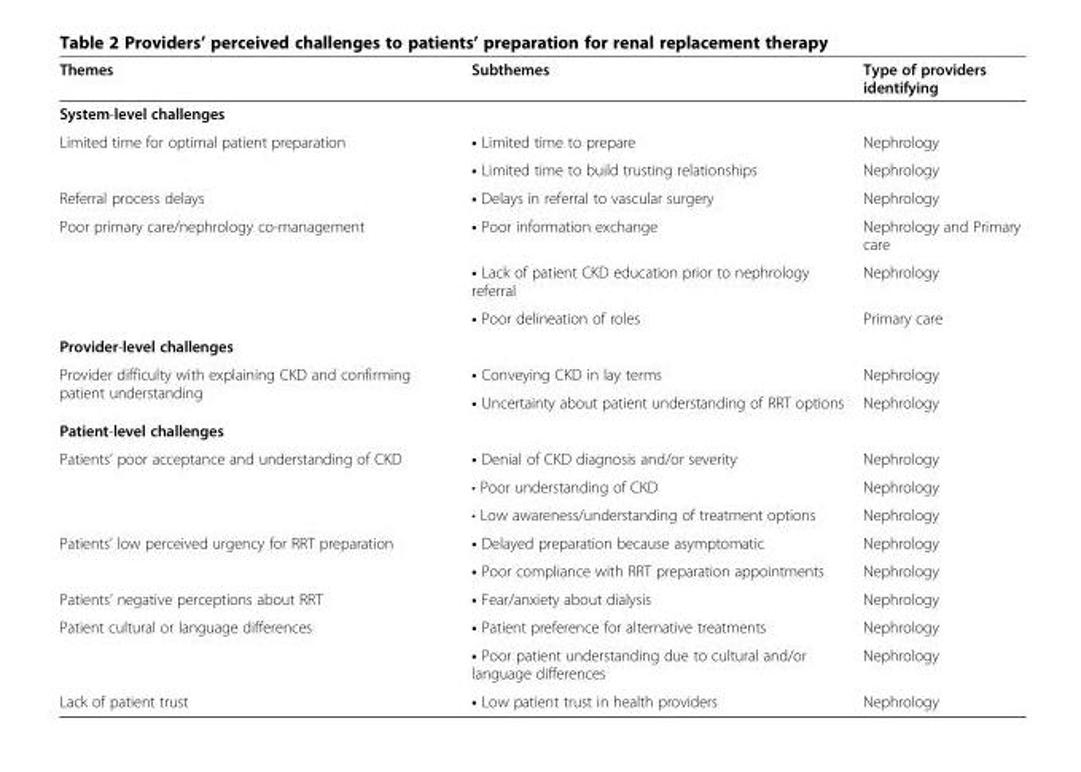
<table><thead><tr><td>Themes</td><td>Subthemes</td><td>Type of providers identifying</td></tr></thead><tbody><tr><td colspan="3">System-level challenges</td></tr><tr><td rowspan="2">Limited time for optimal patient preparation</td><td>• Limited time to prepare</td><td>Nephrology</td></tr><tr><td>• Limited time to build trusting relationships</td><td>Nephrology</td></tr><tr><td>Referral process delays</td><td>• Delays in referral to vascular surgery</td><td>Nephrology</td></tr><tr><td rowspan="3">Poor primary care/nephrology co-management</td><td>• Poor information exchange</td><td>Nephrology and Primary care</td></tr><tr><td>• Lack of patient CKD education prior to nephrology referral</td><td>Nephrology</td></tr><tr><td>• Poor delineation of roles</td><td>Primary care</td></tr><tr><td colspan="3">Provider-level challenges</td></tr><tr><td rowspan="2">Provider difficulty with explaining CKD and confirming patient understanding</td><td>• Conveying CKD in lay terms</td><td>Nephrology</td></tr><tr><td>• Uncertainty about patient understanding of RRT options</td><td>Nephrology</td></tr><tr><td colspan="3">Patient-level challenges</td></tr><tr><td rowspan="3">Patients’ poor acceptance and understanding of CKD</td><td>• Denial of CKD diagnosis and/or severity</td><td>Nephrology</td></tr><tr><td>• Poor understanding of CKD</td><td>Nephrology</td></tr><tr><td>• Low awareness/understanding of treatment options</td><td>Nephrology</td></tr><tr><td rowspan="2">Patients’ low perceived urgency for RRT preparation</td><td>• Delayed preparation because asymptomatic</td><td>Nephrology</td></tr><tr><td>• Poor compliance with RRT preparation appointments</td><td>Nephrology</td></tr><tr><td>Patients’ negative perceptions about RRT</td><td>• Fear/anxiety about dialysis</td><td>Nephrology</td></tr><tr><td rowspan="2">Patient cultural or language differences</td><td>• Patient preference for alternative treatments</td><td>Nephrology</td></tr><tr><td>• Poor patient understanding due to cultural and/or language differences</td><td>Nephrology</td></tr><tr><td>Lack of patient trust</td><td>• Low patient trust in health providers</td><td>Nephrology</td></tr></tbody></table>